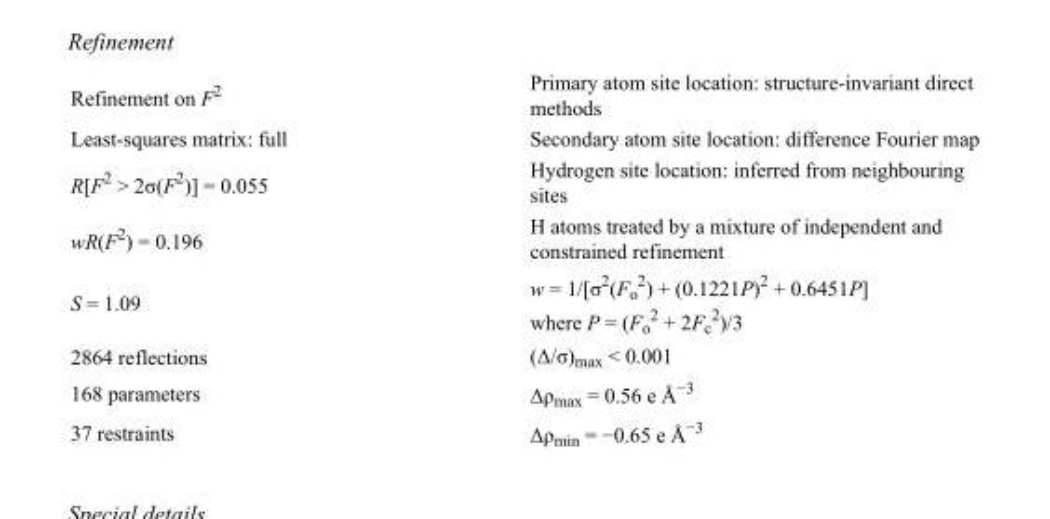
<table><tbody><tr><td>Refinement on F<sup>2</sup></td><td>Primary atom site location: structure-invariant direct methods</td></tr><tr><td>Least-squares matrix: full</td><td>Secondary atom site location: difference Fourier map</td></tr><tr><td>R[F<sup>2</sup> &gt; 2σ(F<sup>2</sup>)] = 0.055</td><td>Hydrogen site location: inferred from neighbouring sites</td></tr><tr><td>wR(F<sup>2</sup>) = 0.196</td><td>H atoms treated by a mixture of independent and constrained refinement</td></tr><tr><td>S = 1.09</td><td>w = 1/[σ<sup>2</sup>(F<sub>o</sub> <sup>2</sup>) + (0.1221P)<sup>2</sup> + 0.6451P] where P = (F<sub>o</sub> <sup>2</sup> + 2F<sub>c</sub> <sup>2</sup>)/3</td></tr><tr><td>2864 reflections</td><td>(Δ/σ)<sub>max</sub> &lt; 0.001</td></tr><tr><td>168 parameters</td><td>Δρ<sub>max</sub> = 0.56 e Å<sup>−3</sup></td></tr><tr><td>37 restraints</td><td>Δρ<sub>min</sub> = −0.65 e Å<sup>−3</sup></td></tr></tbody></table>